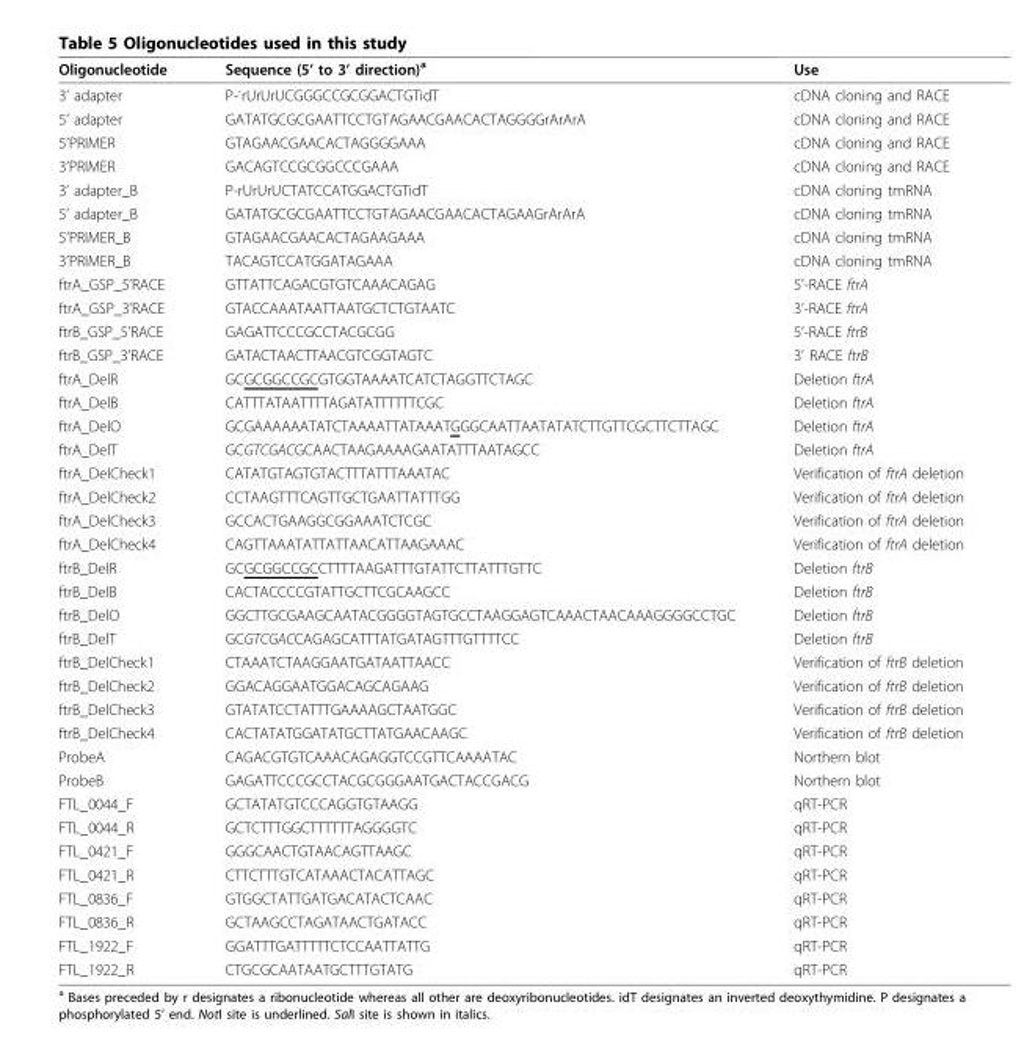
<table><thead><tr><td>Oligonucleotide</td><td>Sequence (5’ to 3’ direction)<sup>a</sup></td><td>Use</td></tr></thead><tbody><tr><td>3’ adapter</td><td>P-<sup>-</sup>rUrUrUCGGGCCGCGGACTGTidT</td><td>cDNA cloning and RACE</td></tr><tr><td>5’ adapter</td><td>GATATGCGCGAATTCCTGTAGAACGAACACTAGGGGrArArA</td><td>cDNA cloning and RACE</td></tr><tr><td>5’PRIMER</td><td>GTAGAACGAACACTAGGGGAAA</td><td>cDNA cloning and RACE</td></tr><tr><td>3’PRIMER</td><td>GACAGTCCGCGGCCCGAAA</td><td>cDNA cloning and RACE</td></tr><tr><td>3’ adapter_B</td><td>P-rUrUrUCTATCCATGGACTGTidT</td><td>cDNA cloning tmRNA</td></tr><tr><td>5’ adapter_B</td><td>GATATGCGCGAATTCCTGTAGAACGAACACTAGAAGrArArA</td><td>cDNA cloning tmRNA</td></tr><tr><td>5’PRIMER_B</td><td>GTAGAACGAACACTAGAAGAAA</td><td>cDNA cloning tmRNA</td></tr><tr><td>3’PRIMER_B</td><td>TACAGTCCATGGATAGAAA</td><td>cDNA cloning tmRNA</td></tr><tr><td>ftrA_GSP_5’RACE</td><td>GTTATTCAGACGTGTCAAACAGAG</td><td>5’-RACE ftrA</td></tr><tr><td>ftrA_GSP_3’RACE</td><td>GTACCAAATAATTAATGCTCTGTAATC</td><td>3’-RACE ftrA</td></tr><tr><td>ftrB_GSP_5’RACE</td><td>GAGATTCCCGCCTACGCGG</td><td>5’-RACE ftrB</td></tr><tr><td>ftrB_GSP_3’RACE</td><td>GATACTAACTTAACGTCGGTAGTC</td><td>3’ RACE ftrB</td></tr><tr><td>ftrA_DelR</td><td>GCGCGGCCGCGTGGTAAAATCATCTAGGTTCTAGC</td><td>Deletion ftrA</td></tr><tr><td>ftrA_DelB</td><td>CATTTATAATTTTAGATATTTTTTCGC</td><td>Deletion ftrA</td></tr><tr><td>ftrA_DelO</td><td>GCGAAAAAATATCTAAAATTATAAATGGGCAATTAATATATCTTGTTCGCTTCTTAGC</td><td>Deletion ftrA</td></tr><tr><td>ftrA_DelT</td><td>GCGTCGACGCAACTAAGAAAAGAATATTTAATAGCC</td><td>Deletion ftrA</td></tr><tr><td>ftrA_DelCheck1</td><td>CATATGTAGTGTACTTTATTTAAATAC</td><td>Verification of ftrA deletion</td></tr><tr><td>ftrA_DelCheck2</td><td>CCTAAGTTTCAGTTGCTGAATTATTTGG</td><td>Verification of ftrA deletion</td></tr><tr><td>ftrA_DelCheck3</td><td>GCCACTGAAGGCGGAAATCTCGC</td><td>Verification of ftrA deletion</td></tr><tr><td>ftrA_DelCheck4</td><td>CAGTTAAATATTATTAACATTAAGAAAC</td><td>Verification of ftrA deletion</td></tr><tr><td>ftrB_DelR</td><td>GCGCGGCCGCCTTTTAAGATTTGTATTCTTATTTGTTC</td><td>Deletion ftrB</td></tr><tr><td>ftrB_DelB</td><td>CACTACCCCGTATTGCTTCGCAAGCC</td><td>Deletion ftrB</td></tr><tr><td>ftrB_DelO</td><td>GGCTTGCGAAGCAATACGGGGTAGTGCCTAAGGAGTCAAACTAACAAAGGGGCCTGC</td><td>Deletion ftrB</td></tr><tr><td>ftrB_DelT</td><td>GCGTCGACCAGAGCATTTATGATAGTTTGTTTTCC</td><td>Deletion ftrB</td></tr><tr><td>ftrB_DelCheck1</td><td>CTAAATCTAAGGAATGATAATTAACC</td><td>Verification of ftrB deletion</td></tr><tr><td>ftrB_DelCheck2</td><td>GGACAGGAATGGACAGCAGAAG</td><td>Verification of ftrB deletion</td></tr><tr><td>ftrB_DelCheck3</td><td>GTATATCCTATTTGAAAAGCTAATGGC</td><td>Verification of ftrB deletion</td></tr><tr><td>ftrB_DelCheck4</td><td>CACTATATGGATATGCTTATGAACAAGC</td><td>Verification of ftrB deletion</td></tr><tr><td>ProbeA</td><td>CAGACGTGTCAAACAGAGGTCCGTTCAAAATAC</td><td>Northern blot</td></tr><tr><td>ProbeB</td><td>GAGATTCCCGCCTACGCGGGAATGACTACCGACG</td><td>Northern blot</td></tr><tr><td>FTL_0044_F</td><td>GCTATATGTCCCAGGTGTAAGG</td><td>qRT-PCR</td></tr><tr><td>FTL_0044_R</td><td>GCTCTTTGGCTTTTTTAGGGGTC</td><td>qRT-PCR</td></tr><tr><td>FTL_0421_F</td><td>GGGCAACTGTAACAGTTAAGC</td><td>qRT-PCR</td></tr><tr><td>FTL_0421_R</td><td>CTTCTTTGTCATAAACTACATTAGC</td><td>qRT-PCR</td></tr><tr><td>FTL_0836_F</td><td>GTGGCTATTGATGACATACTCAAC</td><td>qRT-PCR</td></tr><tr><td>FTL_0836_R</td><td>GCTAAGCCTAGATAACTGATACC</td><td>qRT-PCR</td></tr><tr><td>FTL_1922_F</td><td>GGATTTGATTTTTCTCCAATTATTG</td><td>qRT-PCR</td></tr><tr><td>FTL_1922_R</td><td>CTGCGCAATAATGCTTTGTATG</td><td>qRT-PCR</td></tr></tbody></table>